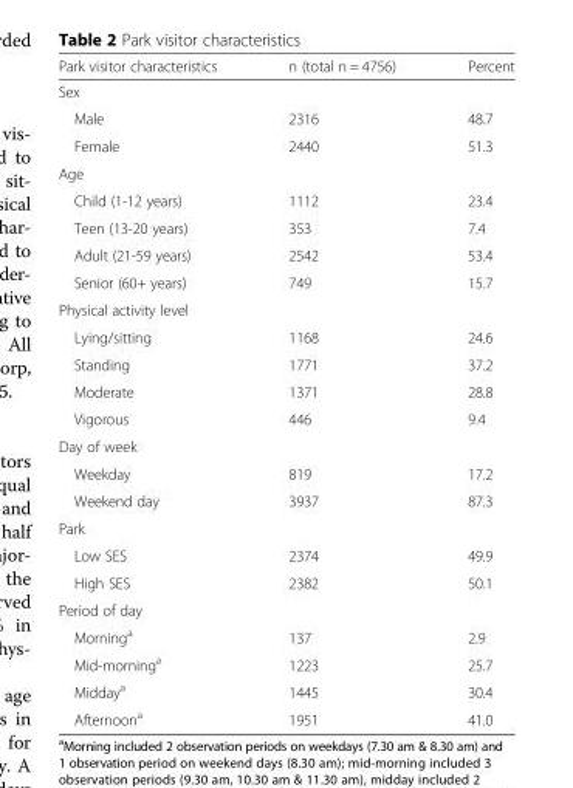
<table><thead><tr><td>Park visitor characteristics</td><td>n (total n = 4756)</td><td>Percent</td></tr></thead><tbody><tr><td colspan="3">Sex</td></tr><tr><td>Male</td><td>2316</td><td>48.7</td></tr><tr><td>Female</td><td>2440</td><td>51.3</td></tr><tr><td colspan="3">Age</td></tr><tr><td>Child (1-12 years)</td><td>1112</td><td>23.4</td></tr><tr><td>Teen (13-20 years)</td><td>353</td><td>7.4</td></tr><tr><td>Adult (21-59 years)</td><td>2542</td><td>53.4</td></tr><tr><td>Senior (60+ years)</td><td>749</td><td>15.7</td></tr><tr><td colspan="3">Physical activity level</td></tr><tr><td>Lying/sitting</td><td>1168</td><td>24.6</td></tr><tr><td>Standing</td><td>1771</td><td>37.2</td></tr><tr><td>Moderate</td><td>1371</td><td>28.8</td></tr><tr><td>Vigorous</td><td>446</td><td>9.4</td></tr><tr><td colspan="3">Day of week</td></tr><tr><td>Weekday</td><td>819</td><td>17.2</td></tr><tr><td>Weekend day</td><td>3937</td><td>87.3</td></tr><tr><td colspan="3">Park</td></tr><tr><td>Low SES</td><td>2374</td><td>49.9</td></tr><tr><td>High SES</td><td>2382</td><td>50.1</td></tr><tr><td colspan="3">Period of day</td></tr><tr><td>Morning<sup>a</sup></td><td>137</td><td>2.9</td></tr><tr><td>Mid-morning<sup>a</sup></td><td>1223</td><td>25.7</td></tr><tr><td>Midday<sup>a</sup></td><td>1445</td><td>30.4</td></tr><tr><td>Afternoon<sup>a</sup></td><td>1951</td><td>41.0</td></tr></tbody></table>